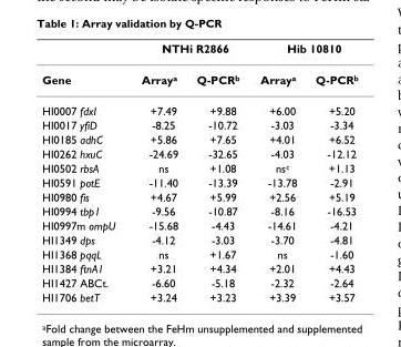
<table><thead><tr><td rowspan="2">Gene</td><td colspan="2">NTHi R2866</td><td colspan="2">Hib 10810</td></tr><tr><td>Array<sup>a</sup></td><td>Q-PCR<sup>b</sup></td><td>Array<sup>a</sup></td><td>Q-PCR<sup>b</sup></td></tr></thead><tbody><tr><td>HI0007 fdxI</td><td>+7.49</td><td>+9.88</td><td>+6.00</td><td>+5.20</td></tr><tr><td>HI0017 yfiD</td><td>-8.25</td><td>-10.72</td><td>-3.03</td><td>-3.34</td></tr><tr><td>HI0185 adhC</td><td>+5.86</td><td>+7.65</td><td>+4.01</td><td>+6.52</td></tr><tr><td>HI0262 hxuC</td><td>-24.69</td><td>-32.65</td><td>-4.03</td><td>-12.12</td></tr><tr><td>HI0502 rbsA</td><td>ns</td><td>+1.08</td><td>ns<sup>c</sup></td><td>+1.13</td></tr><tr><td>HI0591 potE</td><td>-11.40</td><td>-13.39</td><td>-13.78</td><td>-2.91</td></tr><tr><td>HI0980 fis</td><td>+4.67</td><td>+5.99</td><td>+2.56</td><td>+5.19</td></tr><tr><td>HI0994 tbp1</td><td>-9.56</td><td>-10.87</td><td>-8.16</td><td>-16.53</td></tr><tr><td>HI0997m ompU</td><td>-15.68</td><td>-4.43</td><td>-14.61</td><td>-4.21</td></tr><tr><td>HI1349 dps</td><td>-4.12</td><td>-3.03</td><td>-3.70</td><td>-4.81</td></tr><tr><td>HI1368 pqqL</td><td>ns</td><td>+1.67</td><td>ns</td><td>-1.60</td></tr><tr><td>HI1384 ftnA1</td><td>+3.21</td><td>+4.34</td><td>+2.01</td><td>+4.43</td></tr><tr><td>HI1427 ABCt.</td><td>-6.60</td><td>-5.18</td><td>-2.32</td><td>-2.64</td></tr><tr><td>HI1706 betT</td><td>+3.24</td><td>+3.23</td><td>+3.39</td><td>+3.57</td></tr></tbody></table>